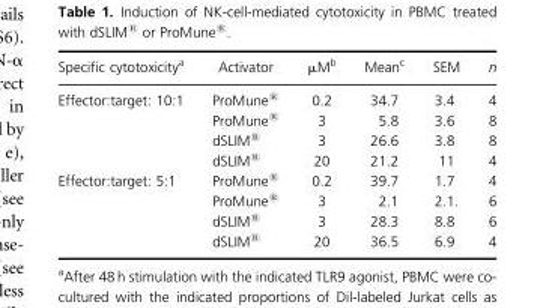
<table><thead><tr><td>Specific cytotoxicity<sup>a</sup></td><td>Activator</td><td>μM<sup>b</sup></td><td>Mean<sup>c</sup></td><td>SEM</td><td>n</td></tr></thead><tbody><tr><td rowspan="4">Effector:target: 10:1</td><td>ProMune®</td><td>0.2</td><td>34.7</td><td>3.4</td><td>4</td></tr><tr><td>ProMune®</td><td>3</td><td>5.8</td><td>3.6</td><td>8</td></tr><tr><td>dSLIM®</td><td>3</td><td>26.6</td><td>3.8</td><td>8</td></tr><tr><td>dSLIM®</td><td>20</td><td>21.2</td><td>11</td><td>4</td></tr><tr><td rowspan="4">Effector:target: 5:1</td><td>ProMune®</td><td>0.2</td><td>39.7</td><td>1.7</td><td>4</td></tr><tr><td>ProMune®</td><td>3</td><td>2.1</td><td>2.1.</td><td>6</td></tr><tr><td>dSLIM®</td><td>3</td><td>28.3</td><td>8.8</td><td>6</td></tr><tr><td>dSLIM®</td><td>20</td><td>36.5</td><td>6.9</td><td>4</td></tr></tbody></table>